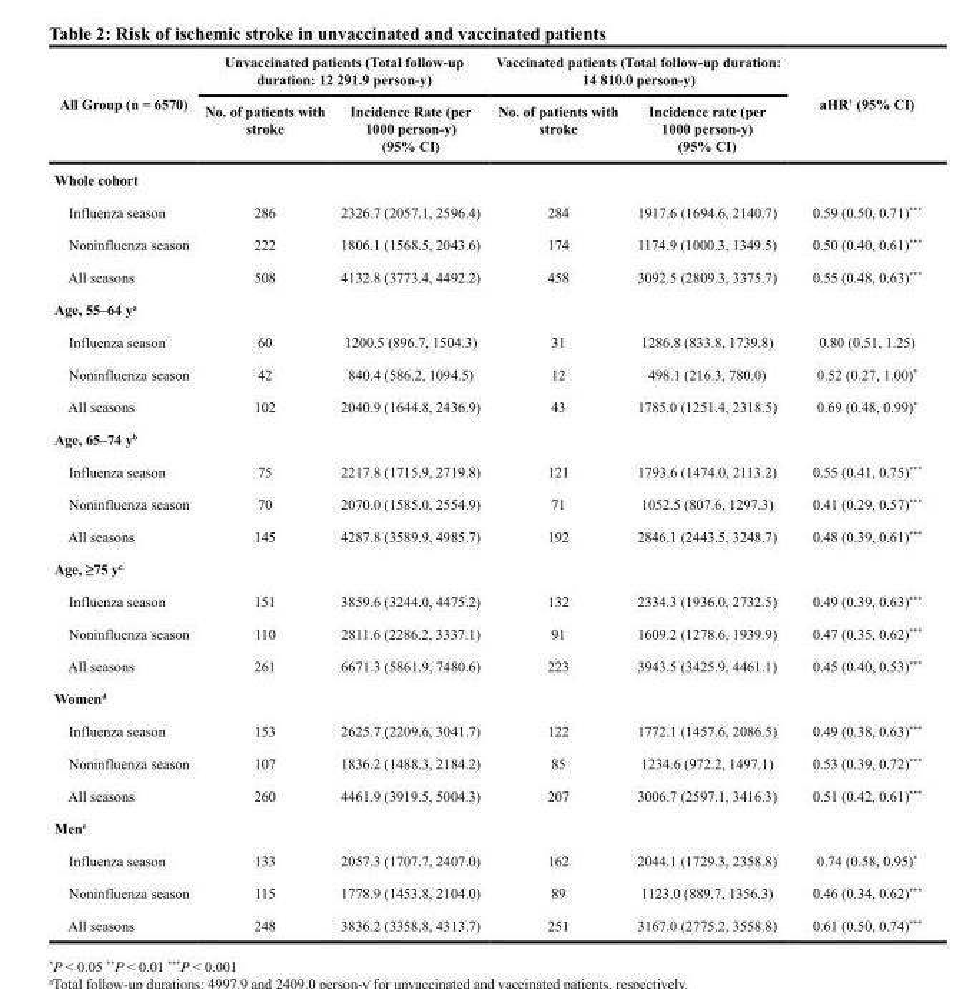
<table><thead><tr><td rowspan="2">All Group (n = 6570)</td><td colspan="2">Unvaccinated patients (Total follow-up duration: 12 291.9 person-y)</td><td colspan="2">Vaccinated patients (Total follow-up duration: 14 810.0 person-y)</td><td rowspan="2">aHR<sup>†</sup> (95% CI)</td></tr><tr><td>No. of patients with stroke</td><td>Incidence Rate (per 1000 person-y) (95% CI)</td><td>No. of patients with stroke</td><td>Incidence rate (per 1000 person-y) (95% CI)</td></tr></thead><tbody><tr><td colspan="6">Whole cohort</td></tr><tr><td>Influenza season</td><td>286</td><td>2326.7 (2057.1, 2596.4)</td><td>284</td><td>1917.6 (1694.6, 2140.7)</td><td>0.59 (0.50, 0.71)***</td></tr><tr><td>Noninfluenza season</td><td>222</td><td>1806.1 (1568.5, 2043.6)</td><td>174</td><td>1174.9 (1000.3, 1349.5)</td><td>0.50 (0.40, 0.61)***</td></tr><tr><td>All seasons</td><td>508</td><td>4132.8 (3773.4, 4492.2)</td><td>458</td><td>3092.5 (2809.3, 3375.7)</td><td>0.55 (0.48, 0.63)***</td></tr><tr><td colspan="6">Age, 55–64 y<sup>a</sup></td></tr><tr><td>Influenza season</td><td>60</td><td>1200.5 (896.7, 1504.3)</td><td>31</td><td>1286.8 (833.8, 1739.8)</td><td>0.80 (0.51, 1.25)</td></tr><tr><td>Noninfluenza season</td><td>42</td><td>840.4 (586.2, 1094.5)</td><td>12</td><td>498.1 (216.3, 780.0)</td><td>0.52 (0.27, 1.00)*</td></tr><tr><td>All seasons</td><td>102</td><td>2040.9 (1644.8, 2436.9)</td><td>43</td><td>1785.0 (1251.4, 2318.5)</td><td>0.69 (0.48, 0.99)*</td></tr><tr><td colspan="6">Age, 65–74 y<sup>b</sup></td></tr><tr><td>Influenza season</td><td>75</td><td>2217.8 (1715.9, 2719.8)</td><td>121</td><td>1793.6 (1474.0, 2113.2)</td><td>0.55 (0.41, 0.75)***</td></tr><tr><td>Noninfluenza season</td><td>70</td><td>2070.0 (1585.0, 2554.9)</td><td>71</td><td>1052.5 (807.6, 1297.3)</td><td>0.41 (0.29, 0.57)***</td></tr><tr><td>All seasons</td><td>145</td><td>4287.8 (3589.9, 4985.7)</td><td>192</td><td>2846.1 (2443.5, 3248.7)</td><td>0.48 (0.39, 0.61)***</td></tr><tr><td colspan="6">Age, ≥75 y<sup>c</sup></td></tr><tr><td>Influenza season</td><td>151</td><td>3859.6 (3244.0, 4475.2)</td><td>132</td><td>2334.3 (1936.0, 2732.5)</td><td>0.49 (0.39, 0.63)***</td></tr><tr><td>Noninfluenza season</td><td>110</td><td>2811.6 (2286.2, 3337.1)</td><td>91</td><td>1609.2 (1278.6, 1939.9)</td><td>0.47 (0.35, 0.62)***</td></tr><tr><td>All seasons</td><td>261</td><td>6671.3 (5861.9, 7480.6)</td><td>223</td><td>3943.5 (3425.9, 4461.1)</td><td>0.45 (0.40, 0.53)***</td></tr><tr><td colspan="6">Women<sup>d</sup></td></tr><tr><td>Influenza season</td><td>153</td><td>2625.7 (2209.6, 3041.7)</td><td>122</td><td>1772.1 (1457.6, 2086.5)</td><td>0.49 (0.38, 0.63)***</td></tr><tr><td>Noninfluenza season</td><td>107</td><td>1836.2 (1488.3, 2184.2)</td><td>85</td><td>1234.6 (972.2, 1497.1)</td><td>0.53 (0.39, 0.72)***</td></tr><tr><td>All seasons</td><td>260</td><td>4461.9 (3919.5, 5004.3)</td><td>207</td><td>3006.7 (2597.1, 3416.3)</td><td>0.51 (0.42, 0.61)***</td></tr><tr><td colspan="6">Men<sup>e</sup></td></tr><tr><td>Influenza season</td><td>133</td><td>2057.3 (1707.7, 2407.0)</td><td>162</td><td>2044.1 (1729.3, 2358.8)</td><td>0.74 (0.58, 0.95)*</td></tr><tr><td>Noninfluenza season</td><td>115</td><td>1778.9 (1453.8, 2104.0)</td><td>89</td><td>1123.0 (889.7, 1356.3)</td><td>0.46 (0.34, 0.62)***</td></tr><tr><td>All seasons</td><td>248</td><td>3836.2 (3358.8, 4313.7)</td><td>251</td><td>3167.0 (2775.2, 3558.8)</td><td>0.61 (0.50, 0.74)***</td></tr></tbody></table>